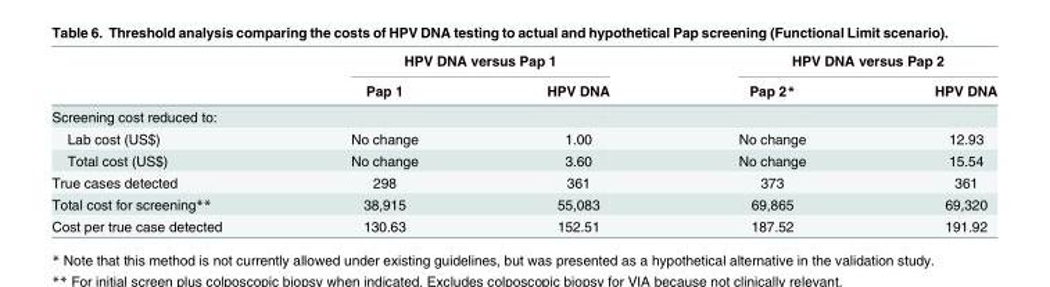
<table><thead><tr><td rowspan="2"></td><td colspan="2">HPV DNA versus Pap 1</td><td colspan="2">HPV DNA versus Pap 2</td></tr><tr><td>Pap 1</td><td>HPV DNA</td><td>Pap 2*</td><td>HPV DNA</td></tr></thead><tbody><tr><td colspan="5">Screening cost reduced to:</td></tr><tr><td>Lab cost (US$)</td><td>No change</td><td>1.00</td><td>No change</td><td>12.93</td></tr><tr><td>Total cost (US$)</td><td>No change</td><td>3.60</td><td>No change</td><td>15.54</td></tr><tr><td>True cases detected</td><td>298</td><td>361</td><td>373</td><td>361</td></tr><tr><td>Total cost for screening**</td><td>38,915</td><td>55,083</td><td>69,865</td><td>69,320</td></tr><tr><td>Cost per true case detected</td><td>130.63</td><td>152.51</td><td>187.52</td><td>191.92</td></tr></tbody></table>